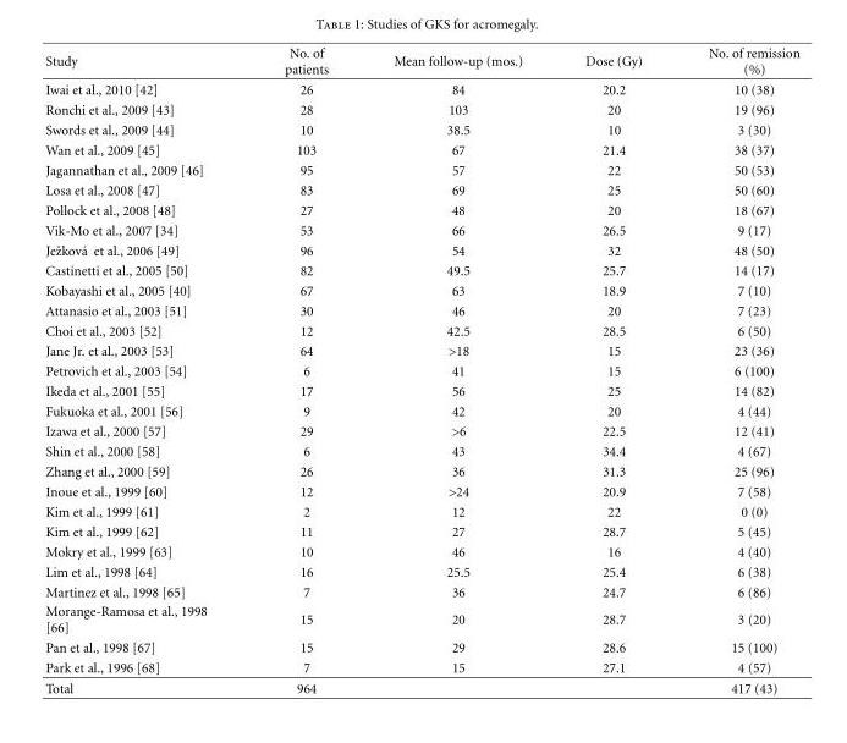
<table><thead><tr><td>Study</td><td>No. of patients</td><td>Mean follow-up (mos.)</td><td>Dose (Gy)</td><td>No. of remission (%)</td></tr></thead><tbody><tr><td>Iwai et al., 2010 [42]</td><td>26</td><td>84</td><td>20.2</td><td>10 (38)</td></tr><tr><td>Ronchi et al., 2009 [43]</td><td>28</td><td>103</td><td>20</td><td>19 (96)</td></tr><tr><td>Swords et al., 2009 [44]</td><td>10</td><td>38.5</td><td>10</td><td>3 (30)</td></tr><tr><td>Wan et al., 2009 [45]</td><td>103</td><td>67</td><td>21.4</td><td>38 (37)</td></tr><tr><td>Jagannathan et al., 2009 [46]</td><td>95</td><td>57</td><td>22</td><td>50 (53)</td></tr><tr><td>Losa et al., 2008 [47]</td><td>83</td><td>69</td><td>25</td><td>50 (60)</td></tr><tr><td>Pollock et al., 2008 [48]</td><td>27</td><td>48</td><td>20</td><td>18 (67)</td></tr><tr><td>Vik-Mo et al., 2007 [34]</td><td>53</td><td>66</td><td>26.5</td><td>9 (17)</td></tr><tr><td>Jeˇzkov´a et al., 2006 [49]</td><td>96</td><td>54</td><td>32</td><td>48 (50)</td></tr><tr><td>Castinetti et al., 2005 [50]</td><td>82</td><td>49.5</td><td>25.7</td><td>14 (17)</td></tr><tr><td>Kobayashi et al., 2005 [40]</td><td>67</td><td>63</td><td>18.9</td><td>7 (10)</td></tr><tr><td>Attanasio et al., 2003 [51]</td><td>30</td><td>46</td><td>20</td><td>7 (23)</td></tr><tr><td>Choi et al., 2003 [52]</td><td>12</td><td>42.5</td><td>28.5</td><td>6 (50)</td></tr><tr><td>Jane Jr. et al., 2003 [53]</td><td>64</td><td>&gt;18</td><td>15</td><td>23 (36)</td></tr><tr><td>Petrovich et al., 2003 [54]</td><td>6</td><td>41</td><td>15</td><td>6 (100)</td></tr><tr><td>Ikeda et al., 2001 [55]</td><td>17</td><td>56</td><td>25</td><td>14 (82)</td></tr><tr><td>Fukuoka et al., 2001 [56]</td><td>9</td><td>42</td><td>20</td><td>4 (44)</td></tr><tr><td>Izawa et al., 2000 [57]</td><td>29</td><td>&gt;6</td><td>22.5</td><td>12 (41)</td></tr><tr><td>Shin et al., 2000 [58]</td><td>6</td><td>43</td><td>34.4</td><td>4 (67)</td></tr><tr><td>Zhang et al., 2000 [59]</td><td>26</td><td>36</td><td>31.3</td><td>25 (96)</td></tr><tr><td>Inoue et al., 1999 [60]</td><td>12</td><td>&gt;24</td><td>20.9</td><td>7 (58)</td></tr><tr><td>Kim et al., 1999 [61]</td><td>2</td><td>12</td><td>22</td><td>0 (0)</td></tr><tr><td>Kim et al., 1999 [62]</td><td>11</td><td>27</td><td>28.7</td><td>5 (45)</td></tr><tr><td>Mokry et al., 1999 [63]</td><td>10</td><td>46</td><td>16</td><td>4 (40)</td></tr><tr><td>Lim et al., 1998 [64]</td><td>16</td><td>25.5</td><td>25.4</td><td>6 (38)</td></tr><tr><td>Martinez et al., 1998 [65]</td><td>7</td><td>36</td><td>24.7</td><td>6 (86)</td></tr><tr><td>Morange-Ramosa et al., 1998 [66]</td><td>15</td><td>20</td><td>28.7</td><td>3 (20)</td></tr><tr><td>Pan et al., 1998 [67]</td><td>15</td><td>29</td><td>28.6</td><td>15 (100)</td></tr><tr><td>Park et al., 1996 [68]</td><td>7</td><td>15</td><td>27.1</td><td>4 (57)</td></tr><tr><td>Total</td><td>964</td><td></td><td></td><td>417 (43)</td></tr></tbody></table>